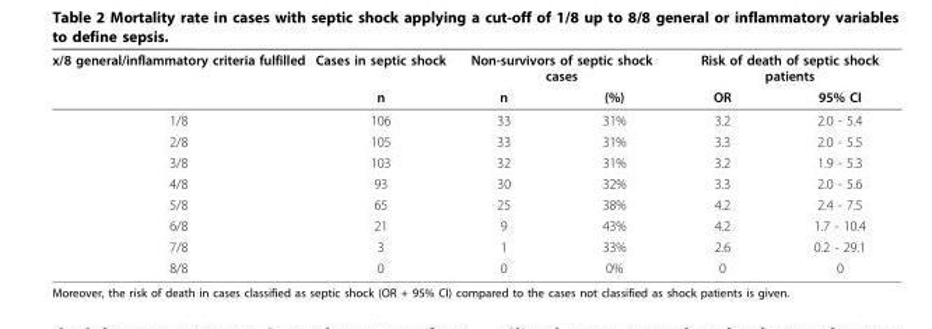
<table><thead><tr><td rowspan="2">x/8 general/inflammatory criteria fulfilled</td><td rowspan="2">Cases in septic shock n</td><td colspan="2">Non-survivors of septic shock cases</td><td colspan="2">Risk of death of septic shock patients</td></tr><tr><td>n</td><td>(%)</td><td>OR</td><td>95% CI</td></tr></thead><tbody><tr><td>1/8</td><td>106</td><td>33</td><td>31%</td><td>3.2</td><td>2.0 - 5.4</td></tr><tr><td>2/8</td><td>105</td><td>33</td><td>31%</td><td>3.3</td><td>2.0 - 5.5</td></tr><tr><td>3/8</td><td>103</td><td>32</td><td>31%</td><td>3.2</td><td>1.9 - 5.3</td></tr><tr><td>4/8</td><td>93</td><td>30</td><td>32%</td><td>3.3</td><td>2.0 - 5.6</td></tr><tr><td>5/8</td><td>65</td><td>25</td><td>38%</td><td>4.2</td><td>2.4 - 7.5</td></tr><tr><td>6/8</td><td>21</td><td>9</td><td>43%</td><td>4.2</td><td>1.7 - 10.4</td></tr><tr><td>7/8</td><td>3</td><td>1</td><td>33%</td><td>2.6</td><td>0.2 - 29.1</td></tr><tr><td>8/8</td><td>0</td><td>0</td><td>0%</td><td>0</td><td>0</td></tr></tbody></table>